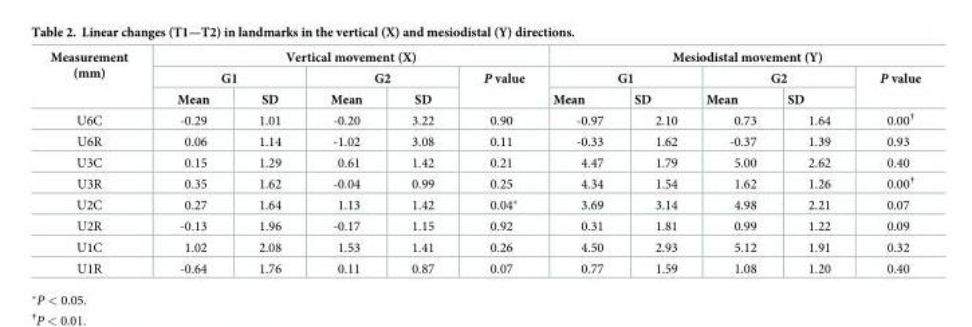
<table><thead><tr><td rowspan="3">Measurement (mm)</td><td colspan="5">Vertical movement (X)</td><td colspan="5">Mesiodistal movement (Y)</td></tr><tr><td colspan="2">G1</td><td colspan="2">G2</td><td rowspan="2">P value</td><td colspan="2">G1</td><td colspan="2">G2</td><td rowspan="2">P value</td></tr><tr><td>Mean</td><td>SD</td><td>Mean</td><td>SD</td><td>Mean</td><td>SD</td><td>Mean</td><td>SD</td></tr></thead><tbody><tr><td>U6C</td><td>-0.29</td><td>1.01</td><td>-0.20</td><td>3.22</td><td>0.90</td><td>-0.97</td><td>2.10</td><td>0.73</td><td>1.64</td><td>0.00<sup>†</sup></td></tr><tr><td>U6R</td><td>0.06</td><td>1.14</td><td>-1.02</td><td>3.08</td><td>0.11</td><td>-0.33</td><td>1.62</td><td>-0.37</td><td>1.39</td><td>0.93</td></tr><tr><td>U3C</td><td>0.15</td><td>1.29</td><td>0.61</td><td>1.42</td><td>0.21</td><td>4.47</td><td>1.79</td><td>5.00</td><td>2.62</td><td>0.40</td></tr><tr><td>U3R</td><td>0.35</td><td>1.62</td><td>-0.04</td><td>0.99</td><td>0.25</td><td>4.34</td><td>1.54</td><td>1.62</td><td>1.26</td><td>0.00<sup>†</sup></td></tr><tr><td>U2C</td><td>0.27</td><td>1.64</td><td>1.13</td><td>1.42</td><td>0.04*</td><td>3.69</td><td>3.14</td><td>4.98</td><td>2.21</td><td>0.07</td></tr><tr><td>U2R</td><td>-0.13</td><td>1.96</td><td>-0.17</td><td>1.15</td><td>0.92</td><td>0.31</td><td>1.81</td><td>0.99</td><td>1.22</td><td>0.09</td></tr><tr><td>U1C</td><td>1.02</td><td>2.08</td><td>1.53</td><td>1.41</td><td>0.26</td><td>4.50</td><td>2.93</td><td>5.12</td><td>1.91</td><td>0.32</td></tr><tr><td>U1R</td><td>-0.64</td><td>1.76</td><td>0.11</td><td>0.87</td><td>0.07</td><td>0.77</td><td>1.59</td><td>1.08</td><td>1.20</td><td>0.40</td></tr></tbody></table>